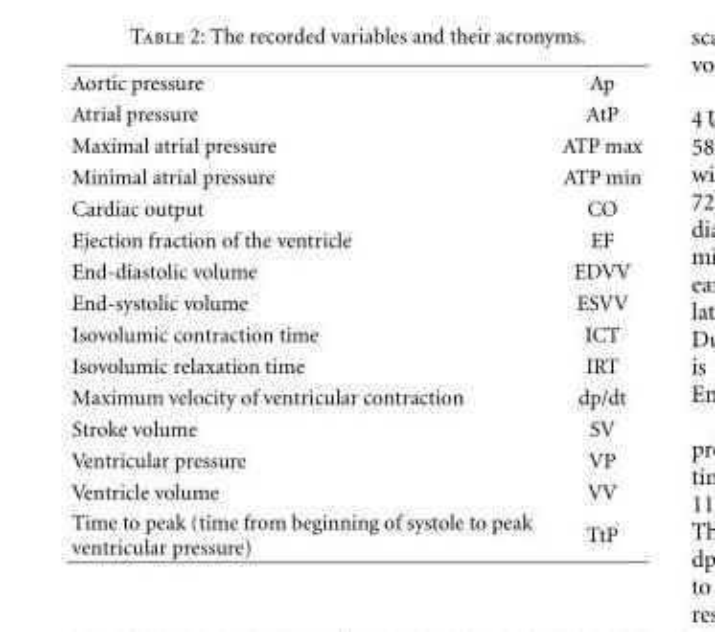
<table><tbody><tr><td>Aortic pressure</td><td>Ap</td></tr><tr><td>Atrial pressure</td><td>AtP</td></tr><tr><td>Maximal atrial pressure</td><td>ATP max</td></tr><tr><td>Minimal atrial pressure</td><td>ATP min</td></tr><tr><td>Cardiac output</td><td>CO</td></tr><tr><td>Ejection fraction of the ventricle</td><td>EF</td></tr><tr><td>End-diastolic volume</td><td>EDVV</td></tr><tr><td>End-systolic volume</td><td>ESVV</td></tr><tr><td>Isovolumic contraction time</td><td>ICT</td></tr><tr><td>Isovolumic relaxation time</td><td>IRT</td></tr><tr><td>Maximum velocity of ventricular contraction</td><td>dp/dt</td></tr><tr><td>Stroke volume</td><td>SV</td></tr><tr><td>Ventricular pressure</td><td>VP</td></tr><tr><td>Ventricle volume</td><td>VV</td></tr><tr><td>Time to peak (time from beginning of systole to peak ventricular pressure)</td><td>TtP</td></tr></tbody></table>